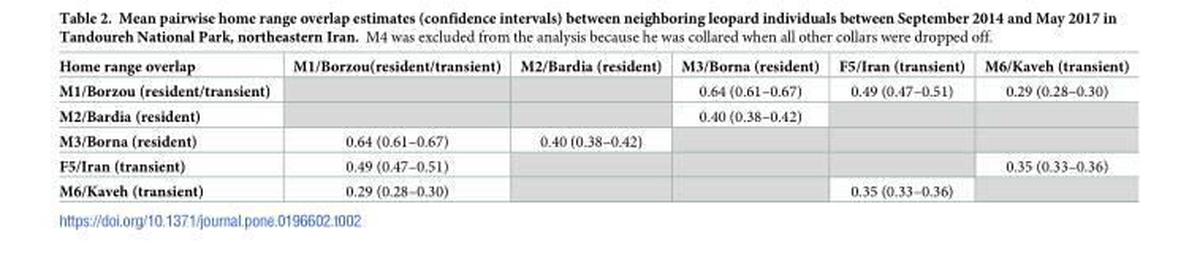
<table><thead><tr><td>Home range overlap</td><td>M1/Borzou(resident/transient)</td><td>M2/Bardia (resident)</td><td>M3/Borna (resident)</td><td>F5/Iran (transient)</td><td>M6/Kaveh (transient)</td></tr></thead><tbody><tr><td>M1/Borzou (resident/transient)</td><td></td><td></td><td>0.64 (0.61–0.67)</td><td>0.49 (0.47–0.51)</td><td>0.29 (0.28–0.30)</td></tr><tr><td>M2/Bardia (resident)</td><td></td><td></td><td>0.40 (0.38–0.42)</td><td></td><td></td></tr><tr><td>M3/Borna (resident)</td><td>0.64 (0.61–0.67)</td><td>0.40 (0.38–0.42)</td><td></td><td></td><td></td></tr><tr><td>F5/Iran (transient)</td><td>0.49 (0.47–0.51)</td><td></td><td></td><td></td><td>0.35 (0.33–0.36)</td></tr><tr><td>M6/Kaveh (transient)</td><td>0.29 (0.28–0.30)</td><td></td><td></td><td>0.35 (0.33–0.36)</td><td></td></tr></tbody></table>